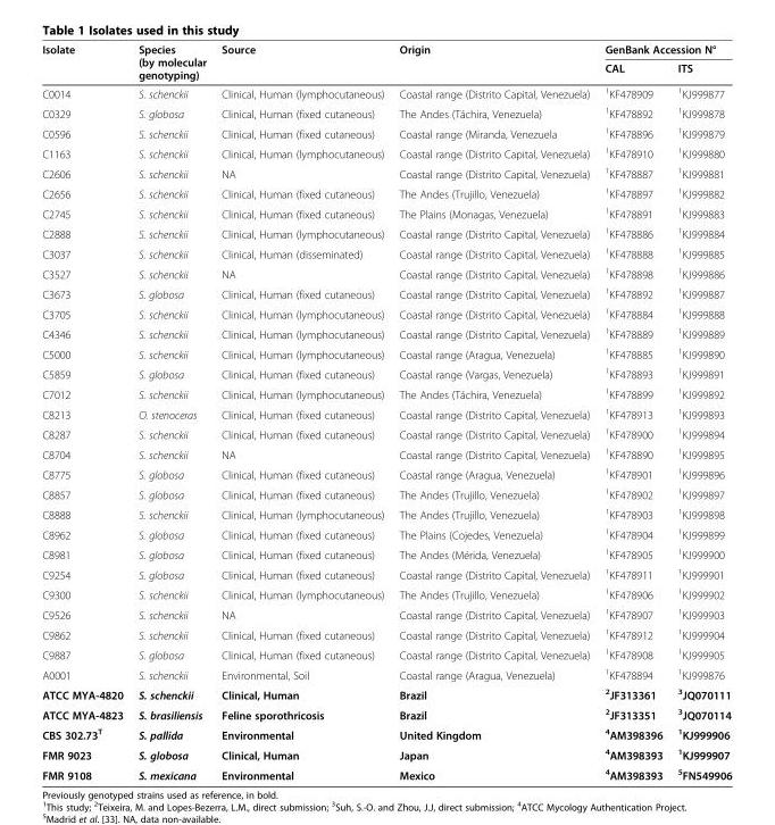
<table><thead><tr><td rowspan="2">Isolate</td><td rowspan="2">Species (by molecular genotyping)</td><td rowspan="2">Source</td><td rowspan="2">Origin</td><td colspan="2">GenBank Accession N°</td></tr><tr><td>CAL</td><td>ITS</td></tr></thead><tbody><tr><td>C0014</td><td>S. schenckii</td><td>Clinical, Human (lymphocutaneous)</td><td>Coastal range (Distrito Capital, Venezuela)</td><td><sup>1</sup>KF478909</td><td><sup>1</sup>KJ999877</td></tr><tr><td>C0329</td><td>S. globosa</td><td>Clinical, Human (fixed cutaneous)</td><td>The Andes (Táchira, Venezuela)</td><td><sup>1</sup>KF478892</td><td><sup>1</sup>KJ999878</td></tr><tr><td>C0596</td><td>S. schenckii</td><td>Clinical, Human (fixed cutaneous)</td><td>Coastal range (Miranda, Venezuela</td><td><sup>1</sup>KF478896</td><td><sup>1</sup>KJ999879</td></tr><tr><td>C1163</td><td>S. schenckii</td><td>Clinical, Human (lymphocutaneous)</td><td>Coastal range (Distrito Capital, Venezuela)</td><td><sup>1</sup>KF478910</td><td><sup>1</sup>KJ999880</td></tr><tr><td>C2606</td><td>S. schenckii</td><td>NA</td><td>Coastal range (Distrito Capital, Venezuela)</td><td><sup>1</sup>KF478887</td><td><sup>1</sup>KJ999881</td></tr><tr><td>C2656</td><td>S. schenckii</td><td>Clinical, Human (fixed cutaneous)</td><td>The Andes (Trujillo, Venezuela)</td><td><sup>1</sup>KF478897</td><td><sup>1</sup>KJ999882</td></tr><tr><td>C2745</td><td>S. schenckii</td><td>Clinical, Human (fixed cutaneous)</td><td>The Plains (Monagas, Venezuela)</td><td><sup>1</sup>KF478891</td><td><sup>1</sup>KJ999883</td></tr><tr><td>C2888</td><td>S. schenckii</td><td>Clinical, Human (lymphocutaneous)</td><td>Coastal range (Distrito Capital, Venezuela)</td><td><sup>1</sup>KF478886</td><td><sup>1</sup>KJ999884</td></tr><tr><td>C3037</td><td>S. schenckii</td><td>Clinical, Human (disseminated)</td><td>Coastal range (Distrito Capital, Venezuela)</td><td><sup>1</sup>KF478888</td><td><sup>1</sup>KJ999885</td></tr><tr><td>C3527</td><td>S. schenckii</td><td>NA</td><td>Coastal range (Distrito Capital, Venezuela)</td><td><sup>1</sup>KF478898</td><td><sup>1</sup>KJ999886</td></tr><tr><td>C3673</td><td>S. globosa</td><td>Clinical, Human (fixed cutaneous)</td><td>Coastal range (Distrito Capital, Venezuela)</td><td><sup>1</sup>KF478892</td><td><sup>1</sup>KJ999887</td></tr><tr><td>C3705</td><td>S. schenckii</td><td>Clinical, Human (lymphocutaneous)</td><td>Coastal range (Distrito Capital, Venezuela)</td><td><sup>1</sup>KF478884</td><td><sup>1</sup>KJ999888</td></tr><tr><td>C4346</td><td>S. schenckii</td><td>Clinical, Human (lymphocutaneous)</td><td>Coastal range (Distrito Capital, Venezuela)</td><td><sup>1</sup>KF478889</td><td><sup>1</sup>KJ999889</td></tr><tr><td>C5000</td><td>S. schenckii</td><td>Clinical, Human (lymphocutaneous)</td><td>Coastal range (Aragua, Venezuela)</td><td><sup>1</sup>KF478885</td><td><sup>1</sup>KJ999890</td></tr><tr><td>C5859</td><td>S. globosa</td><td>Clinical, Human (fixed cutaneous)</td><td>Coastal range (Vargas, Venezuela)</td><td><sup>1</sup>KF478893</td><td><sup>1</sup>KJ999891</td></tr><tr><td>C7012</td><td>S. schenckii</td><td>Clinical, Human (lymphocutaneous)</td><td>The Andes (Táchira, Venezuela)</td><td><sup>1</sup>KF478899</td><td><sup>1</sup>KJ999892</td></tr><tr><td>C8213</td><td>O. stenoceras</td><td>Clinical, Human (fixed cutaneous)</td><td>Coastal range (Distrito Capital, Venezuela)</td><td><sup>1</sup>KF478913</td><td><sup>1</sup>KJ999893</td></tr><tr><td>C8287</td><td>S. schenckii</td><td>Clinical, Human (fixed cutaneous)</td><td>Coastal range (Distrito Capital, Venezuela)</td><td><sup>1</sup>KF478900</td><td><sup>1</sup>KJ999894</td></tr><tr><td>C8704</td><td>S. schenckii</td><td>NA</td><td>Coastal range (Distrito Capital, Venezuela)</td><td><sup>1</sup>KF478890</td><td><sup>1</sup>KJ999895</td></tr><tr><td>C8775</td><td>S. globosa</td><td>Clinical, Human (fixed cutaneous)</td><td>Coastal range (Aragua, Venezuela)</td><td><sup>1</sup>KF478901</td><td><sup>1</sup>KJ999896</td></tr><tr><td>C8857</td><td>S. globosa</td><td>Clinical, Human (fixed cutaneous)</td><td>The Andes (Trujillo, Venezuela)</td><td><sup>1</sup>KF478902</td><td><sup>1</sup>KJ999897</td></tr><tr><td>C8888</td><td>S. schenckii</td><td>Clinical, Human (lymphocutaneous)</td><td>The Andes (Trujillo, Venezuela)</td><td><sup>1</sup>KF478903</td><td><sup>1</sup>KJ999898</td></tr><tr><td>C8962</td><td>S. globosa</td><td>Clinical, Human (fixed cutaneous)</td><td>The Plains (Cojedes, Venezuela)</td><td><sup>1</sup>KF478904</td><td><sup>1</sup>KJ999899</td></tr><tr><td>C8981</td><td>S. globosa</td><td>Clinical, Human (fixed cutaneous)</td><td>The Andes (Mérida, Venezuela)</td><td><sup>1</sup>KF478905</td><td><sup>1</sup>KJ999900</td></tr><tr><td>C9254</td><td>S. globosa</td><td>Clinical, Human (fixed cutaneous)</td><td>Coastal range (Distrito Capital, Venezuela)</td><td><sup>1</sup>KF478911</td><td><sup>1</sup>KJ999901</td></tr><tr><td>C9300</td><td>S. schenckii</td><td>Clinical, Human (lymphocutaneous)</td><td>The Andes (Trujillo, Venezuela)</td><td><sup>1</sup>KF478906</td><td><sup>1</sup>KJ999902</td></tr><tr><td>C9526</td><td>S. schenckii</td><td>NA</td><td>Coastal range (Distrito Capital, Venezuela)</td><td><sup>1</sup>KF478907</td><td><sup>1</sup>KJ999903</td></tr><tr><td>C9862</td><td>S. schenckii</td><td>Clinical, Human (fixed cutaneous)</td><td>Coastal range (Distrito Capital, Venezuela)</td><td><sup>1</sup>KF478912</td><td><sup>1</sup>KJ999904</td></tr><tr><td>C9887</td><td>S. globosa</td><td>Clinical, Human (fixed cutaneous)</td><td>Coastal range (Distrito Capital, Venezuela)</td><td><sup>1</sup>KF478908</td><td><sup>1</sup>KJ999905</td></tr><tr><td>A0001</td><td>S. schenckii</td><td>Environmental, Soil</td><td>Coastal range (Aragua, Venezuela)</td><td><sup>1</sup>KF478894</td><td><sup>1</sup>KJ999876</td></tr><tr><td>ATCC MYA-4820</td><td>S. schenckii</td><td>Clinical, Human</td><td>Brazil</td><td><sup>2</sup>JF313361</td><td><sup>3</sup>JQ070111</td></tr><tr><td>ATCC MYA-4823</td><td>S. brasiliensis</td><td>Feline sporothricosis</td><td>Brazil</td><td><sup>2</sup>JF313351</td><td><sup>3</sup>JQ070114</td></tr><tr><td>CBS 302.73<sup>T</sup></td><td>S. pallida</td><td>Environmental</td><td>United Kingdom</td><td><sup>4</sup>AM398396</td><td><sup>1</sup>KJ999906</td></tr><tr><td>FMR 9023</td><td>S. globosa</td><td>Clinical, Human</td><td>Japan</td><td><sup>4</sup>AM398393</td><td><sup>1</sup>KJ999907</td></tr><tr><td>FMR 9108</td><td>S. mexicana</td><td>Environmental</td><td>Mexico</td><td><sup>4</sup>AM398393</td><td><sup>5</sup>FN549906</td></tr></tbody></table>